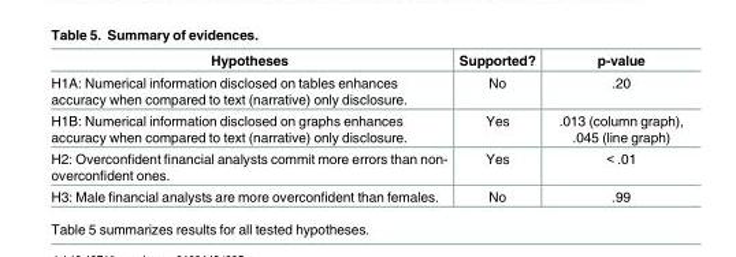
<table><thead><tr><td>Hypotheses</td><td>Supported?</td><td>p-value</td></tr></thead><tbody><tr><td>H1A: Numerical information disclosed on tables enhances accuracy when compared to text (narrative) only disclosure.</td><td>No</td><td>.20</td></tr><tr><td>H1B: Numerical information disclosed on graphs enhances accuracy when compared to text (narrative) only disclosure.</td><td>Yes</td><td>.013 (column graph), .045 (line graph)</td></tr><tr><td>H2: Overconfident financial analysts commit more errors than non- overconfident ones.</td><td>Yes</td><td>&lt; .01</td></tr><tr><td>H3: Male financial analysts are more overconfident than females.</td><td>No</td><td>.99</td></tr></tbody></table>